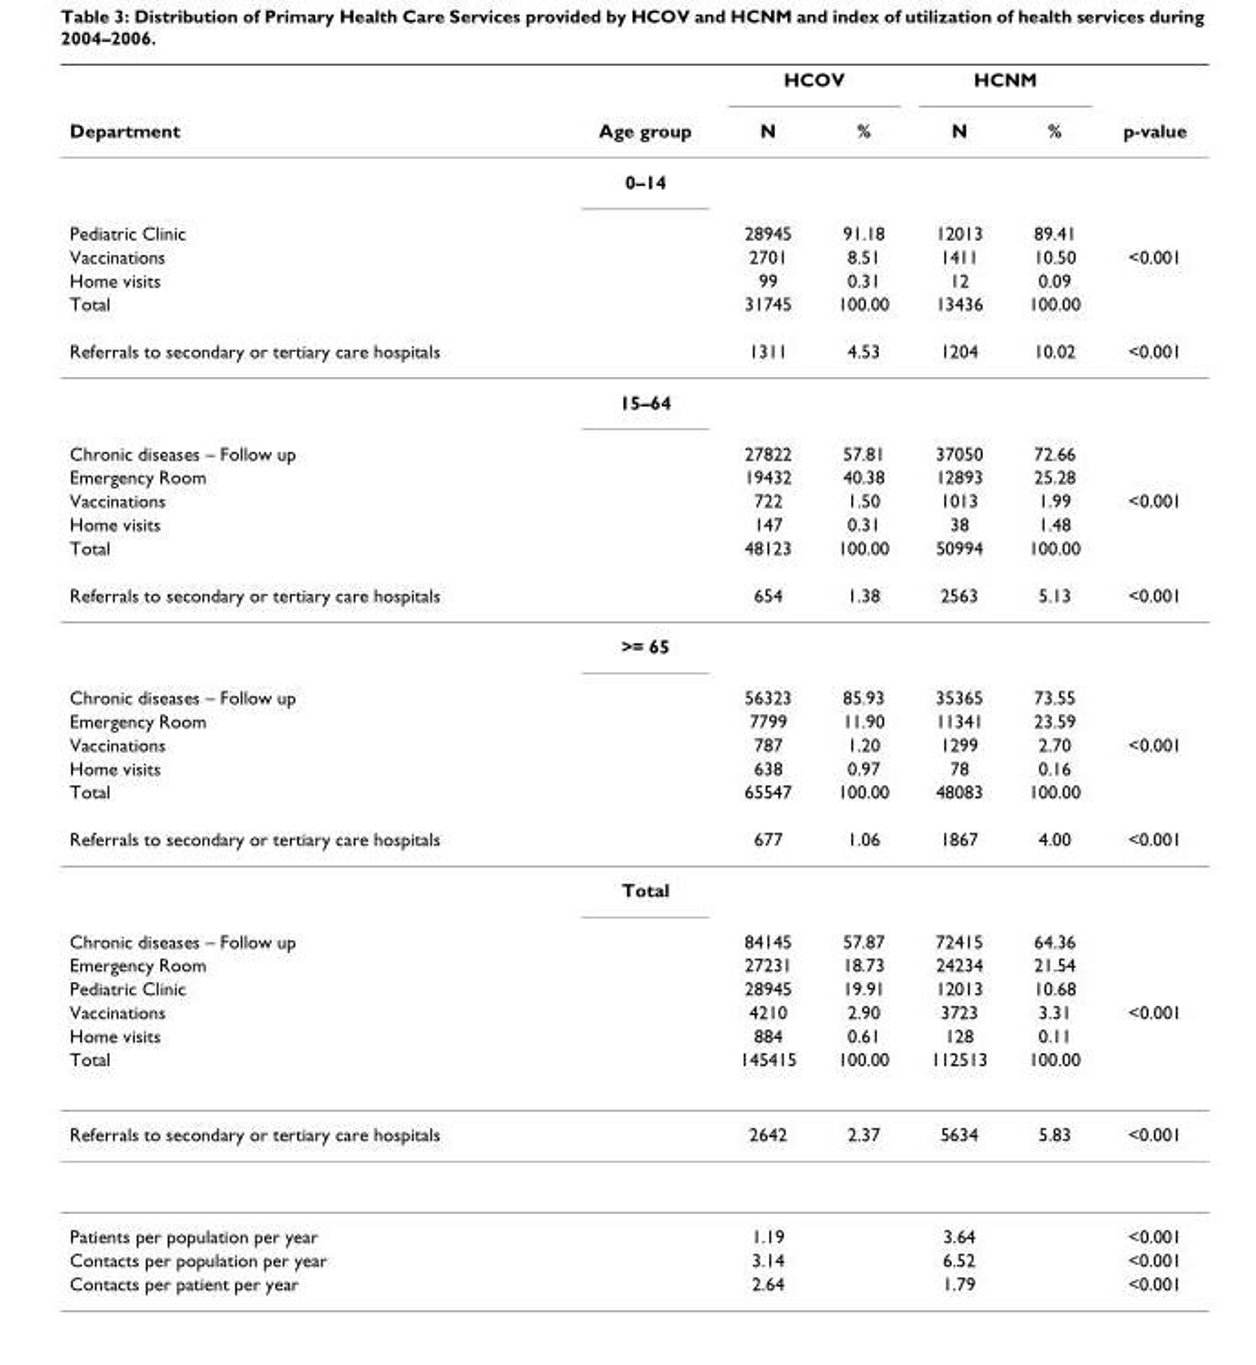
<table><thead><tr><td rowspan="2">Department</td><td rowspan="2">Age group</td><td colspan="2">HCOV</td><td colspan="2">HCNM</td><td rowspan="2">p-value</td></tr><tr><td>N</td><td>%</td><td>N</td><td>%</td></tr></thead><tbody><tr><td></td><td>0–14</td><td></td><td></td><td></td><td></td><td></td></tr><tr><td>Pediatric Clinic</td><td></td><td>28945</td><td>91.18</td><td>12013</td><td>89.41</td><td></td></tr><tr><td>Vaccinations</td><td></td><td>2701</td><td>8.51</td><td>1411</td><td>10.50</td><td>&lt;0.001</td></tr><tr><td>Home visits</td><td></td><td>99</td><td>0.31</td><td>12</td><td>0.09</td><td></td></tr><tr><td>Total</td><td></td><td>31745</td><td>100.00</td><td>13436</td><td>100.00</td><td></td></tr><tr><td rowspan="2">Referrals to secondary or tertiary care hospitals</td><td></td><td>1311</td><td>4.53</td><td>1204</td><td>10.02</td><td>&lt;0.001</td></tr><tr><td>15–64</td><td></td><td></td><td></td><td></td><td></td></tr><tr><td>Chronic diseases – Follow up</td><td></td><td>27822</td><td>57.81</td><td>37050</td><td>72.66</td><td></td></tr><tr><td>Emergency Room</td><td></td><td>19432</td><td>40.38</td><td>12893</td><td>25.28</td><td></td></tr><tr><td>Vaccinations</td><td></td><td>722</td><td>1.50</td><td>1013</td><td>1.99</td><td>&lt;0.001</td></tr><tr><td>Home visits</td><td></td><td>147</td><td>0.31</td><td>38</td><td>1.48</td><td></td></tr><tr><td>Total</td><td></td><td>48123</td><td>100.00</td><td>50994</td><td>100.00</td><td></td></tr><tr><td rowspan="2">Referrals to secondary or tertiary care hospitals</td><td></td><td>654</td><td>1.38</td><td>2563</td><td>5.13</td><td>&lt;0.001</td></tr><tr><td>&gt;= 65</td><td></td><td></td><td></td><td></td><td></td></tr><tr><td>Chronic diseases – Follow up</td><td></td><td>56323</td><td>85.93</td><td>35365</td><td>73.55</td><td></td></tr><tr><td>Emergency Room</td><td></td><td>7799</td><td>11.90</td><td>11341</td><td>23.59</td><td></td></tr><tr><td>Vaccinations</td><td></td><td>787</td><td>1.20</td><td>1299</td><td>2.70</td><td>&lt;0.001</td></tr><tr><td>Home visits</td><td></td><td>638</td><td>0.97</td><td>78</td><td>0.16</td><td></td></tr><tr><td>Total</td><td></td><td>65547</td><td>100.00</td><td>48083</td><td>100.00</td><td></td></tr><tr><td rowspan="2">Referrals to secondary or tertiary care hospitals</td><td></td><td>677</td><td>1.06</td><td>1867</td><td>4.00</td><td>&lt;0.001</td></tr><tr><td>Total</td><td></td><td></td><td></td><td></td><td></td></tr><tr><td>Chronic diseases – Follow up</td><td></td><td>84145</td><td>57.87</td><td>72415</td><td>64.36</td><td></td></tr><tr><td>Emergency Room</td><td></td><td>27231</td><td>18.73</td><td>24234</td><td>21.54</td><td></td></tr><tr><td>Pediatric Clinic</td><td></td><td>28945</td><td>19.91</td><td>12013</td><td>10.68</td><td></td></tr><tr><td>Vaccinations</td><td></td><td>4210</td><td>2.90</td><td>3723</td><td>3.31</td><td>&lt;0.001</td></tr><tr><td>Home visits</td><td></td><td>884</td><td>0.61</td><td>128</td><td>0.11</td><td></td></tr><tr><td>Total</td><td></td><td>145415</td><td>100.00</td><td>112513</td><td>100.00</td><td></td></tr><tr><td>Referrals to secondary or tertiary care hospitals</td><td></td><td>2642</td><td>2.37</td><td>5634</td><td>5.83</td><td>&lt;0.001</td></tr><tr><td>Patients per population per year</td><td></td><td>1.19</td><td></td><td>3.64</td><td></td><td>&lt;0.001</td></tr><tr><td>Contacts per population per year</td><td></td><td>3.14</td><td></td><td>6.52</td><td></td><td>&lt;0.001</td></tr><tr><td>Contacts per patient per year</td><td></td><td>2.64</td><td></td><td>1.79</td><td></td><td>&lt;0.001</td></tr></tbody></table>